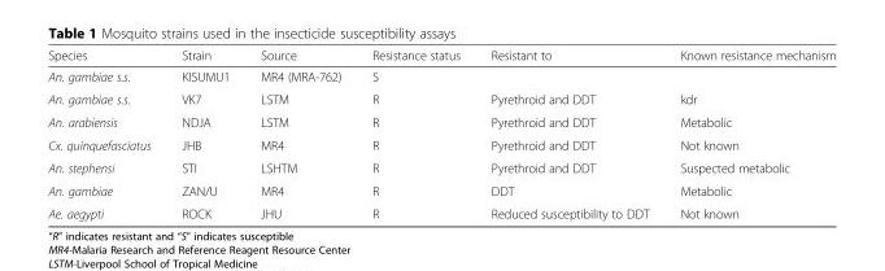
<table><thead><tr><td>Species</td><td>Strain</td><td>Source</td><td>Resistance status</td><td>Resistant to</td><td>Known resistance mechanism</td></tr></thead><tbody><tr><td>An. gambiae s.s.</td><td>KISUMU1</td><td>MR4 (MRA-762)</td><td>S</td><td></td><td></td></tr><tr><td>An. gambiae s.s.</td><td>VK7</td><td>LSTM</td><td>R</td><td>Pyrethroid and DDT</td><td>kdr</td></tr><tr><td>An. arabiensis</td><td>NDJA</td><td>LSTM</td><td>R</td><td>Pyrethroid and DDT</td><td>Metabolic</td></tr><tr><td>Cx. quinquefasciatus</td><td>JHB</td><td>MR4</td><td>R</td><td>Pyrethroid and DDT</td><td>Not known</td></tr><tr><td>An. stephensi</td><td>STI</td><td>LSHTM</td><td>R</td><td>Pyrethroid and DDT</td><td>Suspected metabolic</td></tr><tr><td>An. gambiae</td><td>ZAN/U</td><td>MR4</td><td>R</td><td>DDT</td><td>Metabolic</td></tr><tr><td>Ae. aegypti</td><td>ROCK</td><td>JHU</td><td>R</td><td>Reduced susceptibility to DDT</td><td>Not known</td></tr></tbody></table>